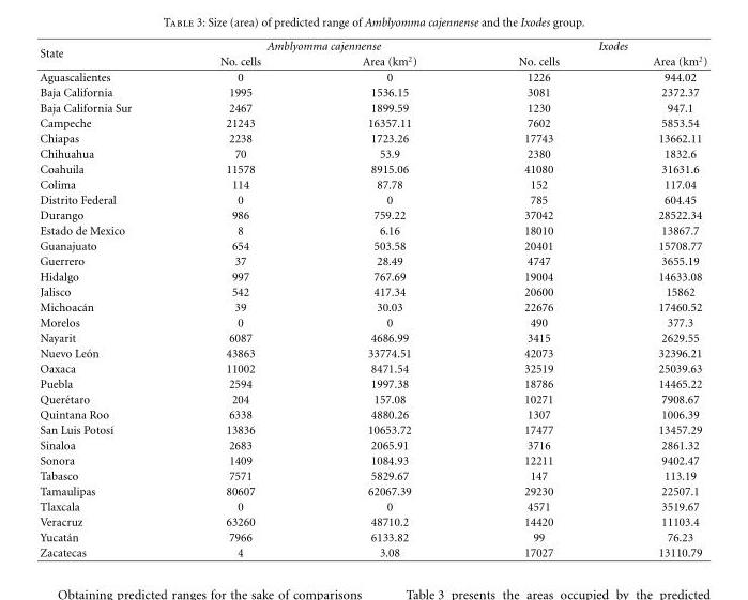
<table><thead><tr><td rowspan="2">State</td><td colspan="2">Amblyomma cajennense</td><td colspan="2">Ixodes</td></tr><tr><td>No. cells</td><td>Area (km<sup>2</sup>)</td><td>No. cells</td><td>Area (km<sup>2</sup>)</td></tr></thead><tbody><tr><td>Aguascalientes</td><td>0</td><td>0</td><td>1226</td><td>944.02</td></tr><tr><td>Baja California</td><td>1995</td><td>1536.15</td><td>3081</td><td>2372.37</td></tr><tr><td>Baja California Sur</td><td>2467</td><td>1899.59</td><td>1230</td><td>947.1</td></tr><tr><td>Campeche</td><td>21243</td><td>16357.11</td><td>7602</td><td>5853.54</td></tr><tr><td>Chiapas</td><td>2238</td><td>1723.26</td><td>17743</td><td>13662.11</td></tr><tr><td>Chihuahua</td><td>70</td><td>53.9</td><td>2380</td><td>1832.6</td></tr><tr><td>Coahuila</td><td>11578</td><td>8915.06</td><td>41080</td><td>31631.6</td></tr><tr><td>Colima</td><td>114</td><td>87.78</td><td>152</td><td>117.04</td></tr><tr><td>Distrito Federal</td><td>0</td><td>0</td><td>785</td><td>604.45</td></tr><tr><td>Durango</td><td>986</td><td>759.22</td><td>37042</td><td>28522.34</td></tr><tr><td>Estado de Mexico</td><td>8</td><td>6.16</td><td>18010</td><td>13867.7</td></tr><tr><td>Guanajuato</td><td>654</td><td>503.58</td><td>20401</td><td>15708.77</td></tr><tr><td>Guerrero</td><td>37</td><td>28.49</td><td>4747</td><td>3655.19</td></tr><tr><td>Hidalgo</td><td>997</td><td>767.69</td><td>19004</td><td>14633.08</td></tr><tr><td>Jalisco</td><td>542</td><td>417.34</td><td>20600</td><td>15862</td></tr><tr><td>Michoac´an</td><td>39</td><td>30.03</td><td>22676</td><td>17460.52</td></tr><tr><td>Morelos</td><td>0</td><td>0</td><td>490</td><td>377.3</td></tr><tr><td>Nayarit</td><td>6087</td><td>4686.99</td><td>3415</td><td>2629.55</td></tr><tr><td>Nuevo Le´on</td><td>43863</td><td>33774.51</td><td>42073</td><td>32396.21</td></tr><tr><td>Oaxaca</td><td>11002</td><td>8471.54</td><td>32519</td><td>25039.63</td></tr><tr><td>Puebla</td><td>2594</td><td>1997.38</td><td>18786</td><td>14465.22</td></tr><tr><td>Quer´etaro</td><td>204</td><td>157.08</td><td>10271</td><td>7908.67</td></tr><tr><td>Quintana Roo</td><td>6338</td><td>4880.26</td><td>1307</td><td>1006.39</td></tr><tr><td>San Luis Potos´ı</td><td>13836</td><td>10653.72</td><td>17477</td><td>13457.29</td></tr><tr><td>Sinaloa</td><td>2683</td><td>2065.91</td><td>3716</td><td>2861.32</td></tr><tr><td>Sonora</td><td>1409</td><td>1084.93</td><td>12211</td><td>9402.47</td></tr><tr><td>Tabasco</td><td>7571</td><td>5829.67</td><td>147</td><td>113.19</td></tr><tr><td>Tamaulipas</td><td>80607</td><td>62067.39</td><td>29230</td><td>22507.1</td></tr><tr><td>Tlaxcala</td><td>0</td><td>0</td><td>4571</td><td>3519.67</td></tr><tr><td>Veracruz</td><td>63260</td><td>48710.2</td><td>14420</td><td>11103.4</td></tr><tr><td>Yucat´an</td><td>7966</td><td>6133.82</td><td>99</td><td>76.23</td></tr><tr><td>Zacatecas</td><td>4</td><td>3.08</td><td>17027</td><td>13110.79</td></tr></tbody></table>